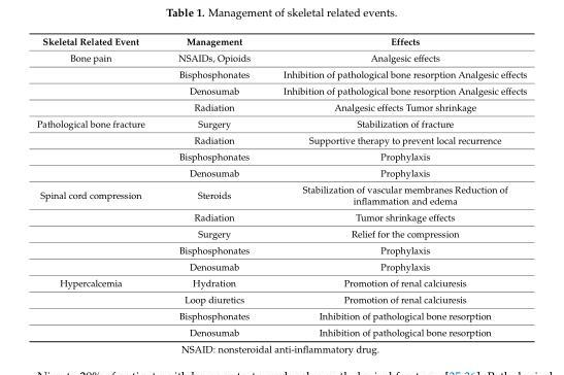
<table><thead><tr><td>Skeletal Related Event</td><td>Management</td><td>Effects</td></tr></thead><tbody><tr><td rowspan="4">Bone pain</td><td>NSAIDs, Opioids</td><td>Analgesic effects</td></tr><tr><td>Bisphosphonates</td><td>Inhibition of pathological bone resorption Analgesic effects</td></tr><tr><td>Denosumab</td><td>Inhibition of pathological bone resorption Analgesic effects</td></tr><tr><td>Radiation</td><td>Analgesic effects Tumor shrinkage</td></tr><tr><td rowspan="4">Pathological bone fracture</td><td>Surgery</td><td>Stabilization of fracture</td></tr><tr><td>Radiation</td><td>Supportive therapy to prevent local recurrence</td></tr><tr><td>Bisphosphonates</td><td>Prophylaxis</td></tr><tr><td>Denosumab</td><td>Prophylaxis</td></tr><tr><td rowspan="5">Spinal cord compression</td><td>Steroids</td><td>Stabilization of vascular membranes Reduction of inflammation and edema</td></tr><tr><td>Radiation</td><td>Tumor shrinkage effects</td></tr><tr><td>Surgery</td><td>Relief for the compression</td></tr><tr><td>Bisphosphonates</td><td>Prophylaxis</td></tr><tr><td>Denosumab</td><td>Prophylaxis</td></tr><tr><td rowspan="4">Hypercalcemia</td><td>Hydration</td><td>Promotion of renal calciuresis</td></tr><tr><td>Loop diuretics</td><td>Promotion of renal calciuresis</td></tr><tr><td>Bisphosphonates</td><td>Inhibition of pathological bone resorption</td></tr><tr><td>Denosumab</td><td>Inhibition of pathological bone resorption</td></tr></tbody></table>